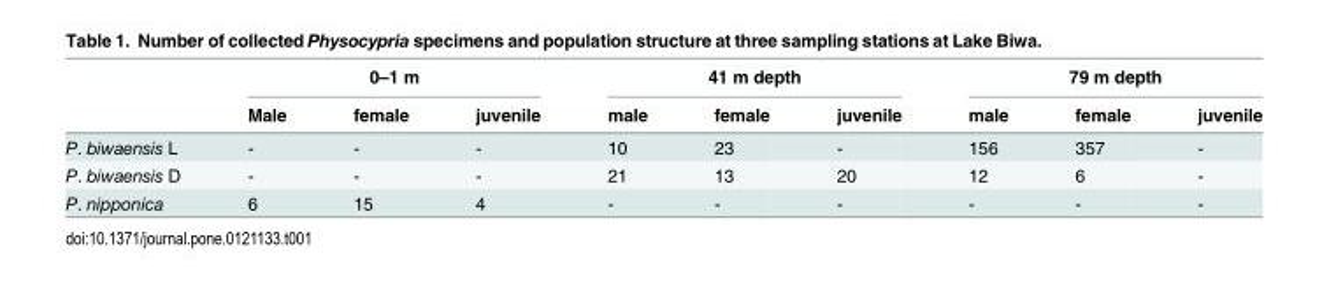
<table><thead><tr><td rowspan="2"></td><td colspan="3">0–1 m</td><td colspan="3">41 m depth</td><td colspan="3">79 m depth</td></tr><tr><td>Male</td><td>female</td><td>juvenile</td><td>male</td><td>female</td><td>juvenile</td><td>male</td><td>female</td><td>juvenile</td></tr></thead><tbody><tr><td>P. biwaensis L</td><td>-</td><td>-</td><td>-</td><td>10</td><td>23</td><td>-</td><td>156</td><td>357</td><td>-</td></tr><tr><td>P. biwaensis D</td><td>-</td><td>-</td><td>-</td><td>21</td><td>13</td><td>20</td><td>12</td><td>6</td><td>-</td></tr><tr><td>P. nipponica</td><td>6</td><td>15</td><td>4</td><td>-</td><td>-</td><td>-</td><td>-</td><td>-</td><td>-</td></tr></tbody></table>